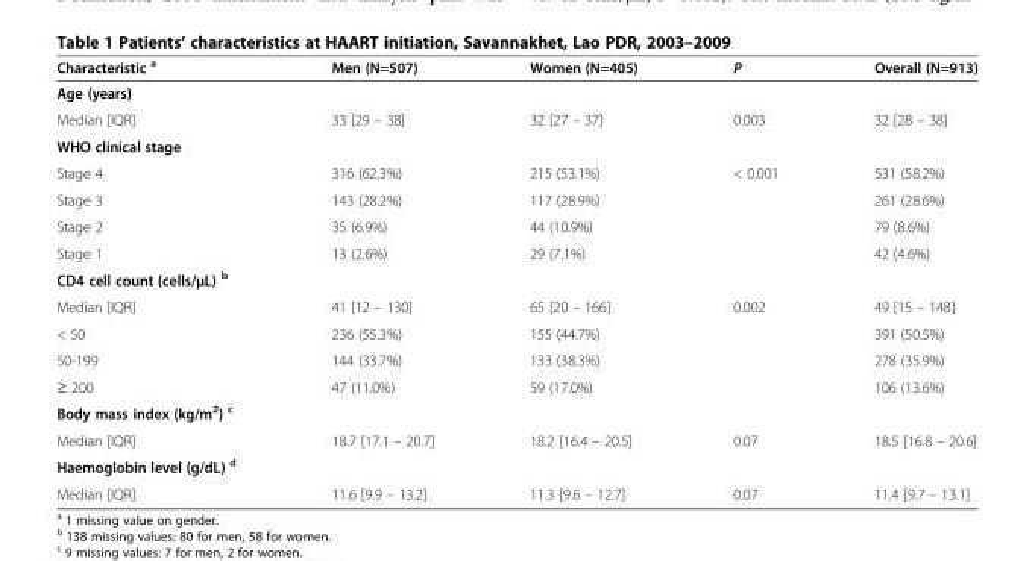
<table><thead><tr><td>Characteristic <sup>a</sup></td><td>Men (N=507)</td><td>Women (N=405)</td><td>P</td><td>Overall (N=913)</td></tr></thead><tbody><tr><td colspan="5">Age (years)</td></tr><tr><td>Median [IQR]</td><td>33 [29 – 38]</td><td>32 [27 – 37]</td><td>0.003</td><td>32 [28 – 38]</td></tr><tr><td colspan="5">WHO clinical stage</td></tr><tr><td>Stage 4</td><td>316 (62.3%)</td><td>215 (53.1%)</td><td>&lt; 0.001</td><td>531 (58.2%)</td></tr><tr><td>Stage 3</td><td>143 (28.2%)</td><td>117 (28.9%)</td><td></td><td>261 (28.6%)</td></tr><tr><td>Stage 2</td><td>35 (6.9%)</td><td>44 (10.9%)</td><td></td><td>79 (8.6%)</td></tr><tr><td>Stage 1</td><td>13 (2.6%)</td><td>29 (7.1%)</td><td></td><td>42 (4.6%)</td></tr><tr><td colspan="5">CD4 cell count (cells/μL) <sup>b</sup></td></tr><tr><td>Median [IQR]</td><td>41 [12 – 130]</td><td>65 [20 – 166]</td><td>0.002</td><td>49 [15 – 148]</td></tr><tr><td>&lt; 50</td><td>236 (55.3%)</td><td>155 (44.7%)</td><td></td><td>391 (50.5%)</td></tr><tr><td>50-199</td><td>144 (33.7%)</td><td>133 (38.3%)</td><td></td><td>278 (35.9%)</td></tr><tr><td>≥ 200</td><td>47 (11.0%)</td><td>59 (17.0%)</td><td></td><td>106 (13.6%)</td></tr><tr><td colspan="5">Body mass index (kg/m<sup>2</sup>) <sup>c</sup></td></tr><tr><td>Median [IQR]</td><td>18.7 [17.1 – 20.7]</td><td>18.2 [16.4 – 20.5]</td><td>0.07</td><td>18.5 [16.8 – 20.6]</td></tr><tr><td colspan="5">Haemoglobin level (g/dL) <sup>d</sup></td></tr><tr><td>Median [IQR]</td><td>11.6 [9.9 – 13.2]</td><td>11.3 [9.6 – 12.7]</td><td>0.07</td><td>11.4 [9.7 – 13.1]</td></tr></tbody></table>